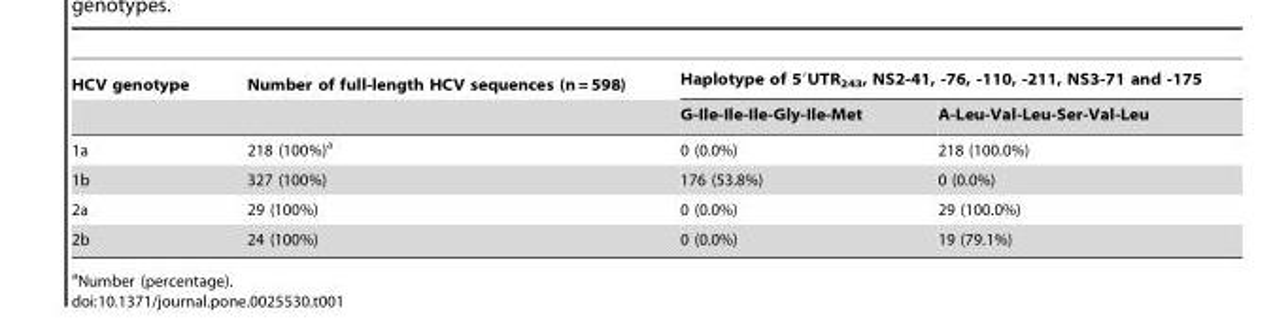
<table><thead><tr><td rowspan="2">HCV genotype</td><td rowspan="2">Number of full-length HCV sequences (n = 598)</td><td colspan="2">Haplotype of 5′UTR<sub>243</sub>, NS2-41, -76, -110, -211, NS3-71 and -175</td></tr><tr><td>G-Ile-Ile-Ile-Gly-Ile-Met</td><td>A-Leu-Val-Leu-Ser-Val-Leu</td></tr></thead><tbody><tr><td>1a</td><td>218 (100%)<sup>a</sup></td><td>0 (0.0%)</td><td>218 (100.0%)</td></tr><tr><td>1b</td><td>327 (100%)</td><td>176 (53.8%)</td><td>0 (0.0%)</td></tr><tr><td>2a</td><td>29 (100%)</td><td>0 (0.0%)</td><td>29 (100.0%)</td></tr><tr><td>2b</td><td>24 (100%)</td><td>0 (0.0%)</td><td>19 (79.1%)</td></tr></tbody></table>